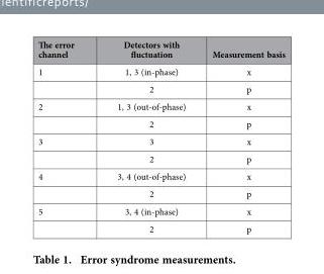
<table><thead><tr><td>The error channel</td><td>Detectors with fluctuation</td><td>Measurement basis</td></tr></thead><tbody><tr><td rowspan="2">1</td><td>1, 3 (in-phase)</td><td>x</td></tr><tr><td>2</td><td>p</td></tr><tr><td rowspan="2">2</td><td>1, 3 (out-of-phase)</td><td>x</td></tr><tr><td>2</td><td>p</td></tr><tr><td rowspan="2">3</td><td>3</td><td>x</td></tr><tr><td>2</td><td>p</td></tr><tr><td rowspan="2">4</td><td>3, 4 (out-of-phase)</td><td>x</td></tr><tr><td>2</td><td>p</td></tr><tr><td rowspan="2">5</td><td>3, 4 (in-phase)</td><td>x</td></tr><tr><td>2</td><td>p</td></tr></tbody></table>